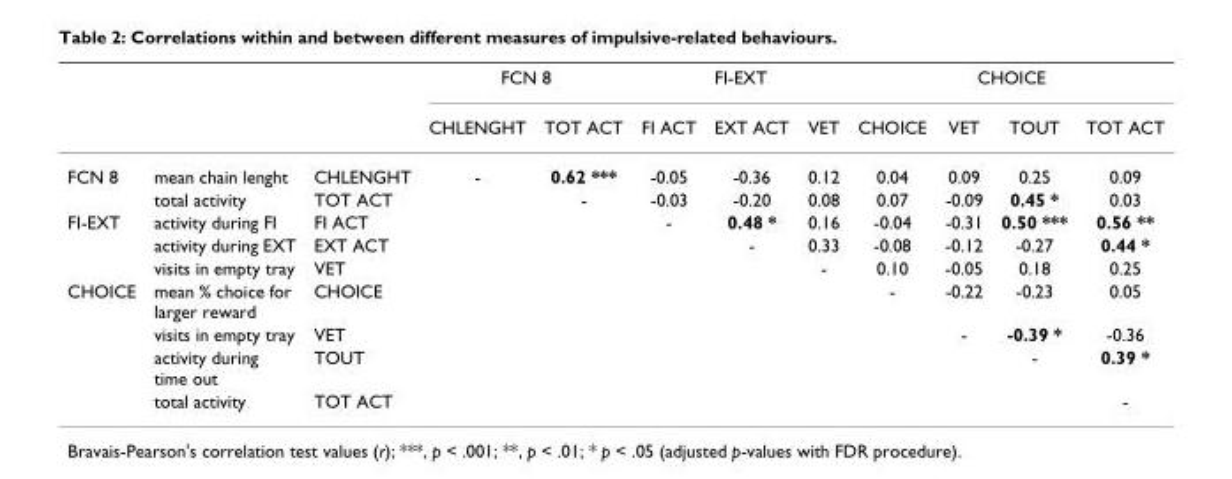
<table><thead><tr><td rowspan="2"></td><td rowspan="2"></td><td rowspan="2"></td><td colspan="2">FCN 8</td><td colspan="3">FI-EXT</td><td colspan="4">CHOICE</td></tr><tr><td>CHLENGHT</td><td>TOT ACT</td><td>FI ACT</td><td>EXT ACT</td><td>VET</td><td>CHOICE</td><td>VET</td><td>TOUT</td><td>TOT ACT</td></tr></thead><tbody><tr><td rowspan="2">FCN 8</td><td>mean chain lenght</td><td>CHLENGHT</td><td>-</td><td>0.62 ***</td><td>-0.05</td><td>-0.36</td><td>0.12</td><td>0.04</td><td>0.09</td><td>0.25</td><td>0.09</td></tr><tr><td>total activity</td><td>TOT ACT</td><td></td><td>-</td><td>-0.03</td><td>-0.20</td><td>0.08</td><td>0.07</td><td>-0.09</td><td>0.45 *</td><td>0.03</td></tr><tr><td rowspan="3">FI-EXT</td><td>activity during FI</td><td>FI ACT</td><td></td><td></td><td>-</td><td>0.48 *</td><td>0.16</td><td>-0.04</td><td>-0.31</td><td>0.50 ***</td><td>0.56 **</td></tr><tr><td>activity during EXT</td><td>EXT ACT</td><td></td><td></td><td></td><td>-</td><td>0.33</td><td>-0.08</td><td>-0.12</td><td>-0.27</td><td>0.44 *</td></tr><tr><td>visits in empty tray</td><td>VET</td><td></td><td></td><td></td><td></td><td>-</td><td>0.10</td><td>-0.05</td><td>0.18</td><td>0.25</td></tr><tr><td rowspan="4">CHOICE</td><td>mean % choice for larger reward</td><td>CHOICE</td><td></td><td></td><td></td><td></td><td></td><td>-</td><td>-0.22</td><td>-0.23</td><td>0.05</td></tr><tr><td>visits in empty tray</td><td>VET</td><td></td><td></td><td></td><td></td><td></td><td></td><td>-</td><td>-0.39 *</td><td>-0.36</td></tr><tr><td>activity during time out</td><td>TOUT</td><td></td><td></td><td></td><td></td><td></td><td></td><td></td><td>-</td><td>0.39 *</td></tr><tr><td>total activity</td><td>TOT ACT</td><td></td><td></td><td></td><td></td><td></td><td></td><td></td><td></td><td>-</td></tr></tbody></table>